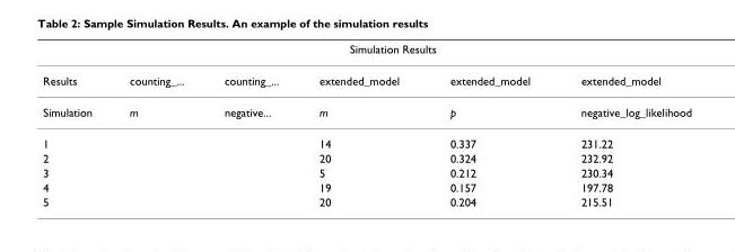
<table><thead><tr><td colspan="6">Simulation Results</td></tr><tr><td>Results</td><td>counting_...</td><td>counting_...</td><td>extended_model</td><td>extended_model</td><td>extended_model</td></tr></thead><tbody><tr><td>Simulation</td><td>m</td><td>negative...</td><td>m</td><td>p</td><td>negative_log_likelihood</td></tr><tr><td>1</td><td></td><td></td><td>14</td><td>0.337</td><td>231.22</td></tr><tr><td>2</td><td></td><td></td><td>20</td><td>0.324</td><td>232.92</td></tr><tr><td>3</td><td></td><td></td><td>5</td><td>0.212</td><td>230.34</td></tr><tr><td>4</td><td></td><td></td><td>19</td><td>0.157</td><td>197.78</td></tr><tr><td>5</td><td></td><td></td><td>20</td><td>0.204</td><td>215.51</td></tr></tbody></table>